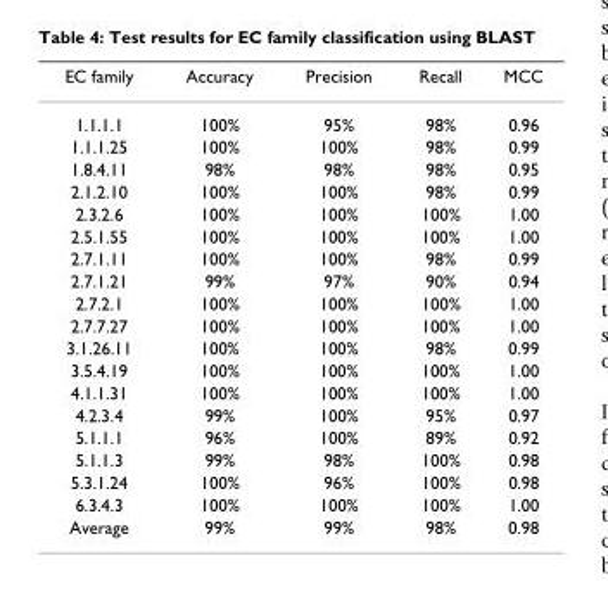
<table><thead><tr><td>EC family</td><td>Accuracy</td><td>Precision</td><td>Recall</td><td>MCC</td></tr></thead><tbody><tr><td>1.1.1.1</td><td>100%</td><td>95%</td><td>98%</td><td>0.96</td></tr><tr><td>1.1.1.25</td><td>100%</td><td>100%</td><td>98%</td><td>0.99</td></tr><tr><td>1.8.4.11</td><td>98%</td><td>98%</td><td>98%</td><td>0.95</td></tr><tr><td>2.1.2.10</td><td>100%</td><td>100%</td><td>98%</td><td>0.99</td></tr><tr><td>2.3.2.6</td><td>100%</td><td>100%</td><td>100%</td><td>1.00</td></tr><tr><td>2.5.1.55</td><td>100%</td><td>100%</td><td>100%</td><td>1.00</td></tr><tr><td>2.7.1.11</td><td>100%</td><td>100%</td><td>98%</td><td>0.99</td></tr><tr><td>2.7.1.21</td><td>99%</td><td>97%</td><td>90%</td><td>0.94</td></tr><tr><td>2.7.2.1</td><td>100%</td><td>100%</td><td>100%</td><td>1.00</td></tr><tr><td>2.7.7.27</td><td>100%</td><td>100%</td><td>100%</td><td>1.00</td></tr><tr><td>3.1.26.11</td><td>100%</td><td>100%</td><td>98%</td><td>0.99</td></tr><tr><td>3.5.4.19</td><td>100%</td><td>100%</td><td>100%</td><td>1.00</td></tr><tr><td>4.1.1.31</td><td>100%</td><td>100%</td><td>100%</td><td>1.00</td></tr><tr><td>4.2.3.4</td><td>99%</td><td>100%</td><td>95%</td><td>0.97</td></tr><tr><td>5.1.1.1</td><td>96%</td><td>100%</td><td>89%</td><td>0.92</td></tr><tr><td>5.1.1.3</td><td>99%</td><td>98%</td><td>100%</td><td>0.98</td></tr><tr><td>5.3.1.24</td><td>100%</td><td>96%</td><td>100%</td><td>0.98</td></tr><tr><td>6.3.4.3</td><td>100%</td><td>100%</td><td>100%</td><td>1.00</td></tr><tr><td>Average</td><td>99%</td><td>99%</td><td>98%</td><td>0.98</td></tr></tbody></table>